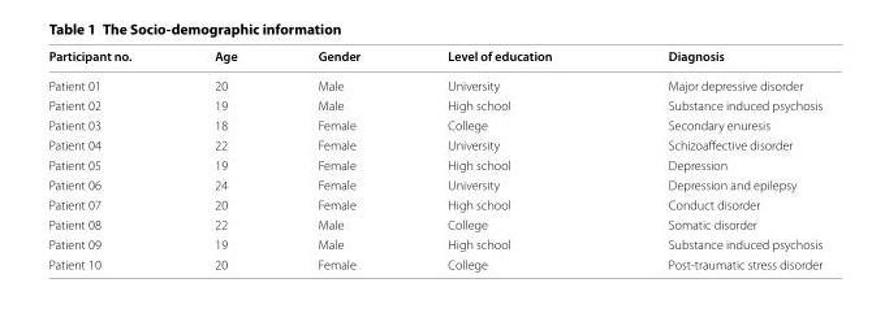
<table><thead><tr><td>Participant no.</td><td>Age</td><td>Gender</td><td>Level of education</td><td>Diagnosis</td></tr></thead><tbody><tr><td>Patient 01</td><td>20</td><td>Male</td><td>University</td><td>Major depressive disorder</td></tr><tr><td>Patient 02</td><td>19</td><td>Male</td><td>High school</td><td>Substance induced psychosis</td></tr><tr><td>Patient 03</td><td>18</td><td>Female</td><td>College</td><td>Secondary enuresis</td></tr><tr><td>Patient 04</td><td>22</td><td>Female</td><td>University</td><td>Schizoaffective disorder</td></tr><tr><td>Patient 05</td><td>19</td><td>Female</td><td>High school</td><td>Depression</td></tr><tr><td>Patient 06</td><td>24</td><td>Female</td><td>University</td><td>Depression and epilepsy</td></tr><tr><td>Patient 07</td><td>20</td><td>Female</td><td>High school</td><td>Conduct disorder</td></tr><tr><td>Patient 08</td><td>22</td><td>Male</td><td>College</td><td>Somatic disorder</td></tr><tr><td>Patient 09</td><td>19</td><td>Male</td><td>High school</td><td>Substance induced psychosis</td></tr><tr><td>Patient 10</td><td>20</td><td>Female</td><td>College</td><td>Post-traumatic stress disorder</td></tr></tbody></table>